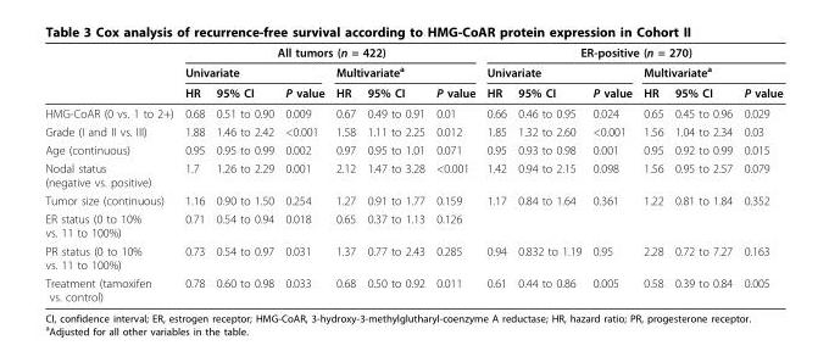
<table><thead><tr><td rowspan="3"></td><td colspan="6">All tumors (n = 422)</td><td colspan="6">ER-positive (n = 270)</td></tr><tr><td colspan="3">Univariate</td><td colspan="3">Multivariate<sup>a</sup></td><td colspan="3">Univariate</td><td colspan="3">Multivariate<sup>a</sup></td></tr><tr><td>HR</td><td>95% CI</td><td>P value</td><td>HR</td><td>95% CI</td><td>P value</td><td>HR</td><td>95% CI</td><td>P value</td><td>HR</td><td>95% CI</td><td>P value</td></tr></thead><tbody><tr><td>HMG-CoAR (0 vs. 1 to 2+)</td><td>0.68</td><td>0.51 to 0.90</td><td>0.009</td><td>0.67</td><td>0.49 to 0.91</td><td>0.01</td><td>0.66</td><td>0.46 to 0.95</td><td>0.024</td><td>0.65</td><td>0.45 to 0.96</td><td>0.029</td></tr><tr><td>Grade (I and II vs. III)</td><td>1.88</td><td>1.46 to 2.42</td><td>&lt;0.001</td><td>1.58</td><td>1.11 to 2.25</td><td>0.012</td><td>1.85</td><td>1.32 to 2.60</td><td>&lt;0.001</td><td>1.56</td><td>1.04 to 2.34</td><td>0.03</td></tr><tr><td>Age (continuous)</td><td>0.95</td><td>0.95 to 0.99</td><td>0.002</td><td>0.97</td><td>0.95 to 1.01</td><td>0.071</td><td>0.95</td><td>0.93 to 0.98</td><td>0.001</td><td>0.95</td><td>0.92 to 0.99</td><td>0.015</td></tr><tr><td>Nodal status (negative vs. positive)</td><td>1.7</td><td>1.26 to 2.29</td><td>0.001</td><td>2.12</td><td>1.47 to 3.28</td><td>&lt;0.001</td><td>1.42</td><td>0.94 to 2.15</td><td>0.098</td><td>1.56</td><td>0.95 to 2.57</td><td>0.079</td></tr><tr><td>Tumor size (continuous)</td><td>1.16</td><td>0.90 to 1.50</td><td>0.254</td><td>1.27</td><td>0.91 to 1.77</td><td>0.159</td><td>1.17</td><td>0.84 to 1.64</td><td>0.361</td><td>1.22</td><td>0.81 to 1.84</td><td>0.352</td></tr><tr><td>ER status (0 to 10% vs. 11 to 100%)</td><td>0.71</td><td>0.54 to 0.94</td><td>0.018</td><td>0.65</td><td>0.37 to 1.13</td><td>0.126</td><td></td><td></td><td></td><td></td><td></td><td></td></tr><tr><td>PR status (0 to 10% vs. 11 to 100%)</td><td>0.73</td><td>0.54 to 0.97</td><td>0.031</td><td>1.37</td><td>0.77 to 2.43</td><td>0.285</td><td>0.94</td><td>0.832 to 1.19</td><td>0.95</td><td>2.28</td><td>0.72 to 7.27</td><td>0.163</td></tr><tr><td>Treatment (tamoxifen vs. control)</td><td>0.78</td><td>0.60 to 0.98</td><td>0.033</td><td>0.68</td><td>0.50 to 0.92</td><td>0.011</td><td>0.61</td><td>0.44 to 0.86</td><td>0.005</td><td>0.58</td><td>0.39 to 0.84</td><td>0.005</td></tr></tbody></table>